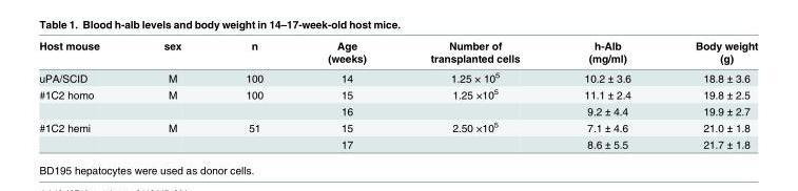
<table><thead><tr><td rowspan="2">Host mouse</td><td rowspan="2">sex</td><td rowspan="2">n</td><td rowspan="2">Age (weeks)</td><td rowspan="2">Number of transplanted cells</td><td rowspan="2">h-Alb (mg/ml)</td><td rowspan="2">Body weight (g)</td></tr><tr></tr></thead><tbody><tr><td>uPA/SCID</td><td>M</td><td>100</td><td>14</td><td>1.25 × 10<sup>5</sup></td><td>10.2 ± 3.6</td><td>18.8 ± 3.6</td></tr><tr><td rowspan="2">#1C2 homo</td><td>M</td><td>100</td><td>15</td><td>1.25 ×10<sup>5</sup></td><td>11.1 ± 2.4</td><td>19.8 ± 2.5</td></tr><tr><td></td><td></td><td>16</td><td></td><td>9.2 ± 4.4</td><td>19.9 ± 2.7</td></tr><tr><td rowspan="2">#1C2 hemi</td><td>M</td><td>51</td><td>15</td><td>2.50 ×10<sup>5</sup></td><td>7.1 ± 4.6</td><td>21.0 ± 1.8</td></tr><tr><td></td><td></td><td>17</td><td></td><td>8.6 ± 5.5</td><td>21.7 ± 1.8</td></tr></tbody></table>